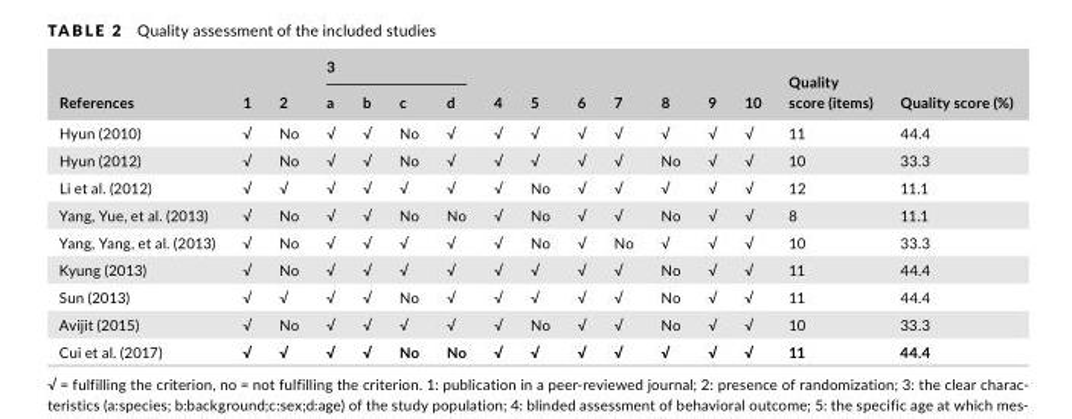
<table><thead><tr><td rowspan="2">References</td><td rowspan="2">1</td><td rowspan="2">2</td><td colspan="4">3</td><td rowspan="2">4</td><td rowspan="2">5</td><td rowspan="2">6</td><td rowspan="2">7</td><td rowspan="2">8</td><td rowspan="2">9</td><td rowspan="2">10</td><td rowspan="2">Quality score (items)</td><td rowspan="2">Quality score (%)</td></tr><tr><td>a</td><td>b</td><td>c</td><td>d</td></tr></thead><tbody><tr><td>Hyun (2010)</td><td>√</td><td>No</td><td>√</td><td>√</td><td>No</td><td>√</td><td>√</td><td>√</td><td>√</td><td>√</td><td>√</td><td>√</td><td>√</td><td>11</td><td>44.4</td></tr><tr><td>Hyun (2012)</td><td>√</td><td>No</td><td>√</td><td>√</td><td>No</td><td>√</td><td>√</td><td>√</td><td>√</td><td>√</td><td>No</td><td>√</td><td>√</td><td>10</td><td>33.3</td></tr><tr><td>Li et al. (2012)</td><td>√</td><td>√</td><td>√</td><td>√</td><td>√</td><td>√</td><td>√</td><td>No</td><td>√</td><td>√</td><td>√</td><td>√</td><td>√</td><td>12</td><td>11.1</td></tr><tr><td>Yang, Yue, et al. (2013)</td><td>√</td><td>No</td><td>√</td><td>√</td><td>No</td><td>No</td><td>√</td><td>No</td><td>√</td><td>√</td><td>No</td><td>√</td><td>√</td><td>8</td><td>11.1</td></tr><tr><td>Yang, Yang, et al. (2013)</td><td>√</td><td>No</td><td>√</td><td>√</td><td>√</td><td>√</td><td>√</td><td>No</td><td>√</td><td>No</td><td>√</td><td>√</td><td>√</td><td>10</td><td>33.3</td></tr><tr><td>Kyung (2013)</td><td>√</td><td>No</td><td>√</td><td>√</td><td>√</td><td>√</td><td>√</td><td>√</td><td>√</td><td>√</td><td>No</td><td>√</td><td>√</td><td>11</td><td>44.4</td></tr><tr><td>Sun (2013)</td><td>√</td><td>√</td><td>√</td><td>√</td><td>No</td><td>√</td><td>√</td><td>√</td><td>√</td><td>√</td><td>No</td><td>√</td><td>√</td><td>11</td><td>44.4</td></tr><tr><td>Avijit (2015)</td><td>√</td><td>No</td><td>√</td><td>√</td><td>√</td><td>√</td><td>√</td><td>No</td><td>√</td><td>√</td><td>No</td><td>√</td><td>√</td><td>10</td><td>33.3</td></tr><tr><td>Cui et al. (2017)</td><td>√</td><td>√</td><td>√</td><td>√</td><td>No</td><td>No</td><td>√</td><td>√</td><td>√</td><td>√</td><td>√</td><td>√</td><td>√</td><td>11</td><td>44.4</td></tr></tbody></table>